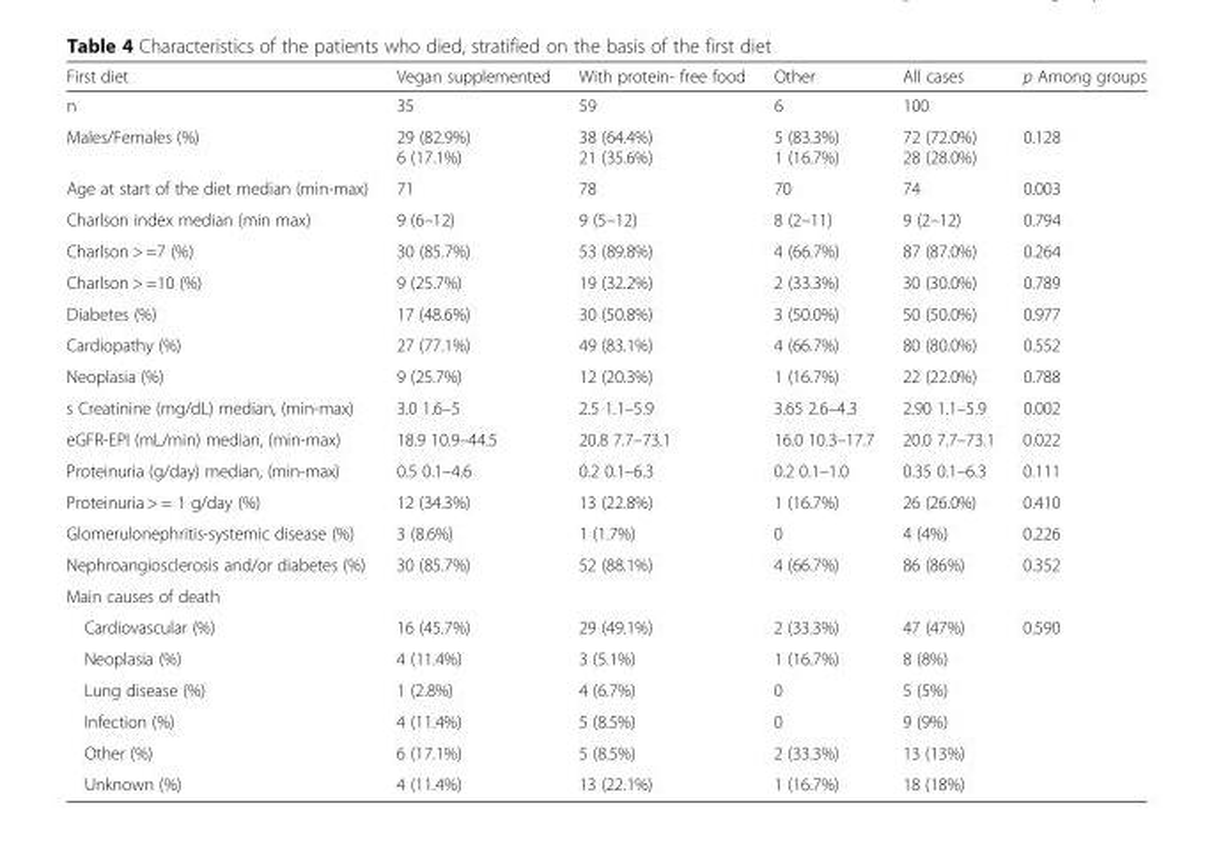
<table><thead><tr><td>First diet</td><td>Vegan supplemented</td><td>With protein- free food</td><td>Other</td><td>All cases</td><td>p Among groups</td></tr></thead><tbody><tr><td>n</td><td>35</td><td>59</td><td>6</td><td>100</td><td></td></tr><tr><td>Males/Females (%)</td><td>29 (82.9%) 6 (17.1%)</td><td>38 (64.4%) 21 (35.6%)</td><td>5 (83.3%) 1 (16.7%)</td><td>72 (72.0%) 28 (28.0%)</td><td>0.128</td></tr><tr><td>Age at start of the diet median (min-max)</td><td>71</td><td>78</td><td>70</td><td>74</td><td>0.003</td></tr><tr><td>Charlson index median (min max)</td><td>9 (6–12)</td><td>9 (5–12)</td><td>8 (2–11)</td><td>9 (2–12)</td><td>0.794</td></tr><tr><td>Charlson &gt; =7 (%)</td><td>30 (85.7%)</td><td>53 (89.8%)</td><td>4 (66.7%)</td><td>87 (87.0%)</td><td>0.264</td></tr><tr><td>Charlson &gt; =10 (%)</td><td>9 (25.7%)</td><td>19 (32.2%)</td><td>2 (33.3%)</td><td>30 (30.0%)</td><td>0.789</td></tr><tr><td>Diabetes (%)</td><td>17 (48.6%)</td><td>30 (50.8%)</td><td>3 (50.0%)</td><td>50 (50.0%)</td><td>0.977</td></tr><tr><td>Cardiopathy (%)</td><td>27 (77.1%)</td><td>49 (83.1%)</td><td>4 (66.7%)</td><td>80 (80.0%)</td><td>0.552</td></tr><tr><td>Neoplasia (%)</td><td>9 (25.7%)</td><td>12 (20.3%)</td><td>1 (16.7%)</td><td>22 (22.0%)</td><td>0.788</td></tr><tr><td>s Creatinine (mg/dL) median, (min-max)</td><td>3.0 1.6–5</td><td>2.5 1.1–5.9</td><td>3.65 2.6–4.3</td><td>2.90 1.1–5.9</td><td>0.002</td></tr><tr><td>eGFR-EPI (mL/min) median, (min-max)</td><td>18.9 10.9–44.5</td><td>20.8 7.7–73.1</td><td>16.0 10.3–17.7</td><td>20.0 7.7–73.1</td><td>0.022</td></tr><tr><td>Proteinuria (g/day) median, (min-max)</td><td>0.5 0.1–4.6</td><td>0.2 0.1–6.3</td><td>0.2 0.1–1.0</td><td>0.35 0.1–6.3</td><td>0.111</td></tr><tr><td>Proteinuria &gt; = 1 g/day (%)</td><td>12 (34.3%)</td><td>13 (22.8%)</td><td>1 (16.7%)</td><td>26 (26.0%)</td><td>0.410</td></tr><tr><td>Glomerulonephritis-systemic disease (%)</td><td>3 (8.6%)</td><td>1 (1.7%)</td><td>0</td><td>4 (4%)</td><td>0.226</td></tr><tr><td>Nephroangiosclerosis and/or diabetes (%)</td><td>30 (85.7%)</td><td>52 (88.1%)</td><td>4 (66.7%)</td><td>86 (86%)</td><td>0.352</td></tr><tr><td colspan="6">Main causes of death</td></tr><tr><td>Cardiovascular (%)</td><td>16 (45.7%)</td><td>29 (49.1%)</td><td>2 (33.3%)</td><td>47 (47%)</td><td rowspan="6">0.590</td></tr><tr><td>Neoplasia (%)</td><td>4 (11.4%)</td><td>3 (5.1%)</td><td>1 (16.7%)</td><td>8 (8%)</td></tr><tr><td>Lung disease (%)</td><td>1 (2.8%)</td><td>4 (6.7%)</td><td>0</td><td>5 (5%)</td></tr><tr><td>Infection (%)</td><td>4 (11.4%)</td><td>5 (8.5%)</td><td>0</td><td>9 (9%)</td></tr><tr><td>Other (%)</td><td>6 (17.1%)</td><td>5 (8.5%)</td><td>2 (33.3%)</td><td>13 (13%)</td></tr><tr><td>Unknown (%)</td><td>4 (11.4%)</td><td>13 (22.1%)</td><td>1 (16.7%)</td><td>18 (18%)</td></tr></tbody></table>